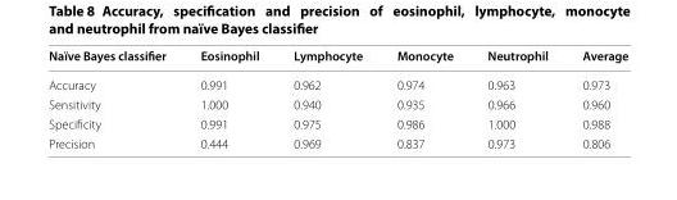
<table><thead><tr><td>Naïve Bayes classifier</td><td>Eosinophil</td><td>Lymphocyte</td><td>Monocyte</td><td>Neutrophil</td><td>Average</td></tr></thead><tbody><tr><td>Accuracy</td><td>0.991</td><td>0.962</td><td>0.974</td><td>0.963</td><td>0.973</td></tr><tr><td>Sensitivity</td><td>1.000</td><td>0.940</td><td>0.935</td><td>0.966</td><td>0.960</td></tr><tr><td>Specificity</td><td>0.991</td><td>0.975</td><td>0.986</td><td>1.000</td><td>0.988</td></tr><tr><td>Precision</td><td>0.444</td><td>0.969</td><td>0.837</td><td>0.973</td><td>0.806</td></tr></tbody></table>